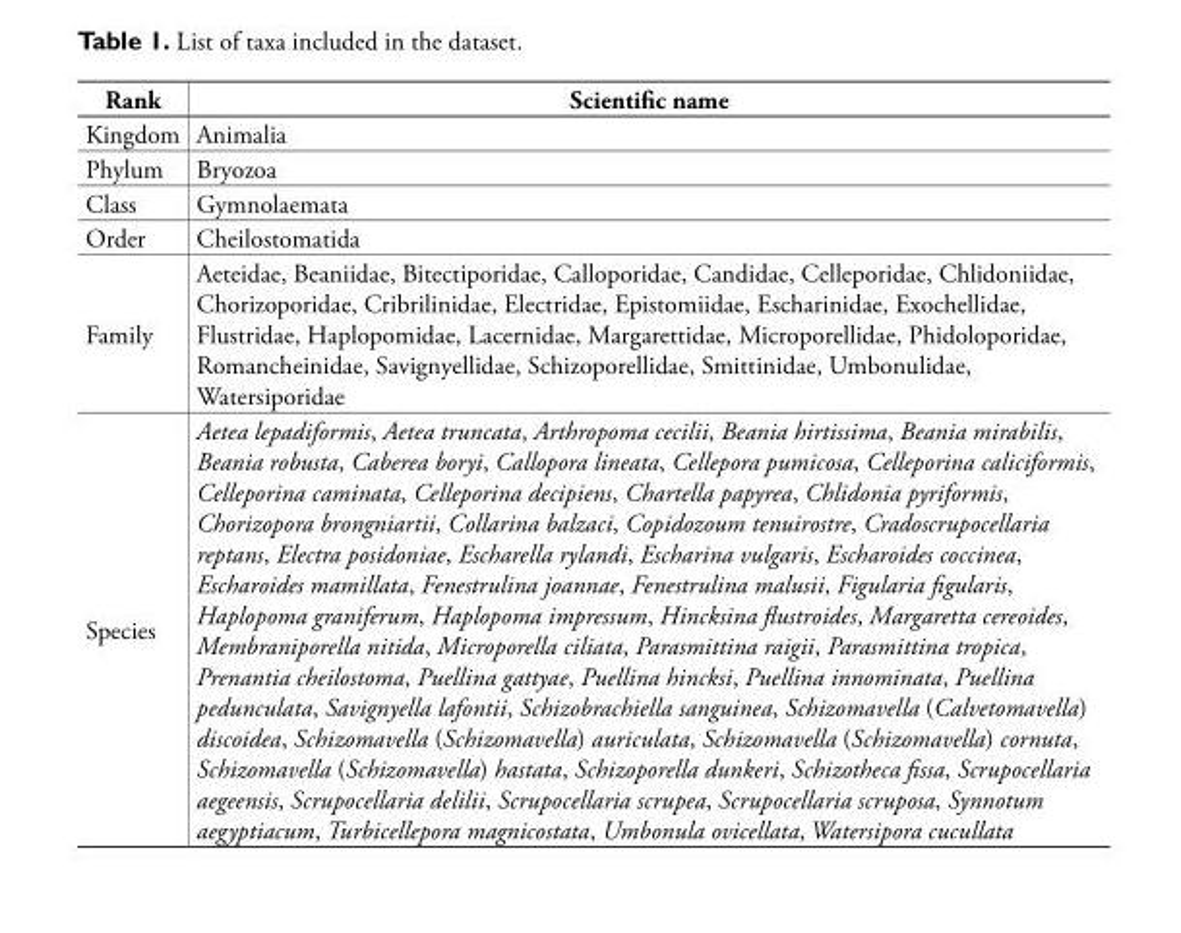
<table><thead><tr><td>Rank</td><td>Scientific name</td></tr></thead><tbody><tr><td>Kingdom</td><td>Animalia</td></tr><tr><td>Phylum</td><td>Bryozoa</td></tr><tr><td>Class</td><td>Gymnolaemata</td></tr><tr><td>Order</td><td>Cheilostomatida</td></tr><tr><td>Family</td><td>Aeteidae, Beaniidae, Bitectiporidae, Calloporidae, Candidae, Celleporidae, Chlidoniidae, Chorizoporidae, Cribrilinidae, Electridae, Epistomiidae, Escharinidae, Exochellidae, Flustridae, Haplopomidae, Lacernidae, Margarettidae, Microporellidae, Phidoloporidae, Romancheinidae, Savignyellidae, Schizoporellidae, Smittinidae, Umbonulidae, Watersiporidae</td></tr><tr><td>Species</td><td>Aetea lepadiformis, Aetea truncata, Arthropoma cecilii, Beania hirtissima, Beania mirabilis, Beania robusta, Caberea boryi, Callopora lineata, Cellepora pumicosa, Celleporina caliciformis, Celleporina caminata, Celleporina decipiens, Chartella papyrea, Chlidonia pyriformis, Chorizopora brongniartii, Collarina balzaci, Copidozoum tenuirostre, Cradoscrupocellaria reptans, Electra posidoniae, Escharella rylandi, Escharina vulgaris, Escharoides coccinea, Escharoides mamillata, Fenestrulina joannae, Fenestrulina malusii, Figularia figularis, Haplopoma graniferum, Haplopoma impressum, Hincksina flustroides, Margaretta cereoides, Membraniporella nitida, Microporella ciliata, Parasmittina raigii, Parasmittina tropica, Prenantia cheilostoma, Puellina gattyae, Puellina hincksi, Puellina innominata, Puellina pedunculata, Savignyella lafontii, Schizobrachiella sanguinea, Schizomavella (Calvetomavella) discoidea, Schizomavella (Schizomavella) auriculata, Schizomavella (Schizomavella) cornuta, Schizomavella (Schizomavella) hastata, Schizoporella dunkeri, Schizotheca fissa, Scrupocellaria aegeensis, Scrupocellaria delilii, Scrupocellaria scrupea, Scrupocellaria scruposa, Synnotum aegyptiacum, Turbicellepora magnicostata, Umbonula ovicellata, Watersipora cucullata</td></tr></tbody></table>